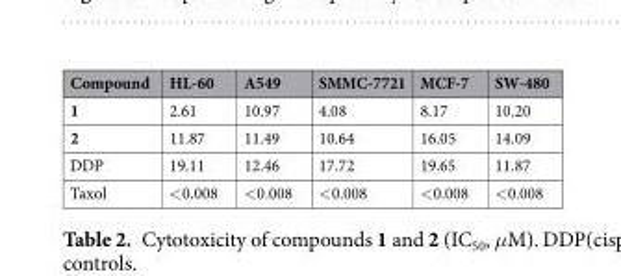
<table><thead><tr><td>Compound</td><td>HL-60</td><td>A549</td><td>SMMC-7721</td><td>MCF-7</td><td>SW-480</td></tr></thead><tbody><tr><td>1</td><td>2.61</td><td>10.97</td><td>4.08</td><td>8.17</td><td>10.20</td></tr><tr><td>2</td><td>11.87</td><td>11.49</td><td>10.64</td><td>16.05</td><td>14.09</td></tr><tr><td>DDP</td><td>19.11</td><td>12.46</td><td>17.72</td><td>19.65</td><td>11.87</td></tr><tr><td>Taxol</td><td>&lt;0.008</td><td>&lt;0.008</td><td>&lt;0.008</td><td>&lt;0.008</td><td>&lt;0.008</td></tr></tbody></table>